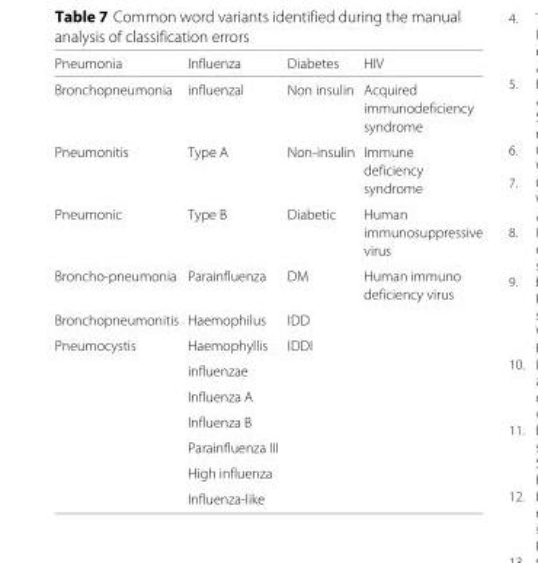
<table><thead><tr><td>Pneumonia</td><td>Influenza</td><td>Diabetes</td><td>HIV</td></tr></thead><tbody><tr><td rowspan="3">Bronchopneumonia</td><td>influenzal</td><td>Non insulin</td><td>Acquired</td></tr><tr><td></td><td></td><td>immunodeficiency</td></tr><tr><td></td><td></td><td>syndrome</td></tr><tr><td rowspan="3">Pneumonitis</td><td>Type A</td><td>Non-insulin</td><td>Immune</td></tr><tr><td></td><td></td><td>deficiency</td></tr><tr><td></td><td></td><td>syndrome</td></tr><tr><td rowspan="3">Pneumonic</td><td>Type B</td><td>Diabetic</td><td>Human</td></tr><tr><td></td><td></td><td>immunosuppressive</td></tr><tr><td></td><td></td><td>virus</td></tr><tr><td rowspan="2">Broncho-pneumonia</td><td>Parainfluenza</td><td>DM</td><td>Human immuno</td></tr><tr><td></td><td></td><td>deficiency virus</td></tr><tr><td>Bronchopneumonitis</td><td>Haemophilus</td><td>IDD</td><td></td></tr><tr><td rowspan="7">Pneumocystis</td><td>Haemophyllis</td><td>IDDI</td><td></td></tr><tr><td>influenzae</td><td></td><td></td></tr><tr><td>Influenza A</td><td></td><td></td></tr><tr><td>Influenza B</td><td></td><td></td></tr><tr><td>Parainfluenza III</td><td></td><td></td></tr><tr><td>High influenza</td><td></td><td></td></tr><tr><td>Influenza-like</td><td></td><td></td></tr></tbody></table>